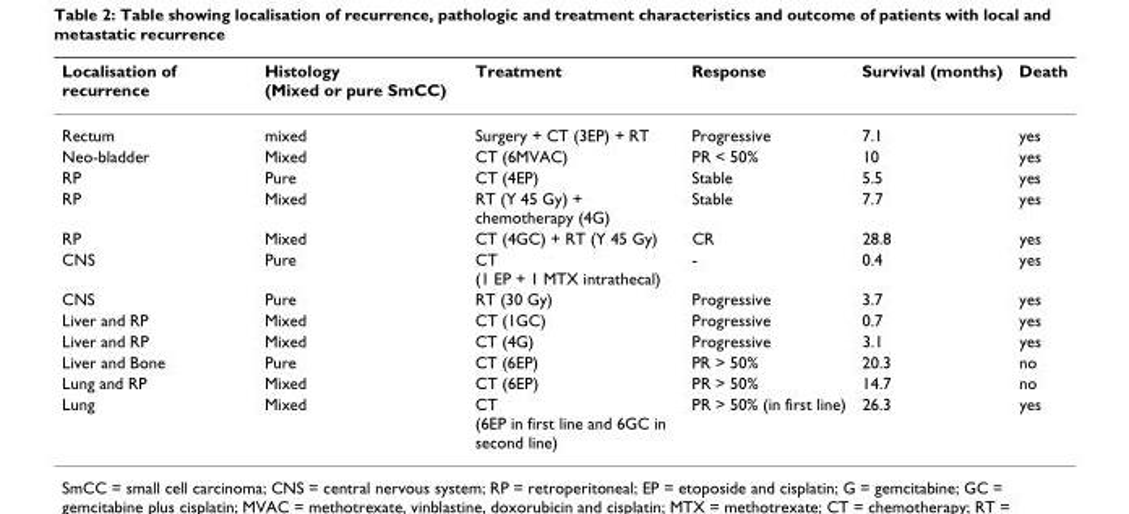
<table><thead><tr><td>Localisation of recurrence</td><td>Histology (Mixed or pure SmCC)</td><td>Treatment</td><td>Response</td><td>Survival (months)</td><td>Death</td></tr></thead><tbody><tr><td>Rectum</td><td>mixed</td><td>Surgery + CT (3EP) + RT</td><td>Progressive</td><td>7.1</td><td>yes</td></tr><tr><td>Neo-bladder</td><td>Mixed</td><td>CT (6MVAC)</td><td>PR &lt; 50%</td><td>10</td><td>yes</td></tr><tr><td>RP</td><td>Pure</td><td>CT (4EP)</td><td>Stable</td><td>5.5</td><td>yes</td></tr><tr><td>RP</td><td>Mixed</td><td>RT (Y 45 Gy) + chemotherapy (4G)</td><td>Stable</td><td>7.7</td><td>yes</td></tr><tr><td>RP</td><td>Mixed</td><td>CT (4GC) + RT (Y 45 Gy)</td><td>CR</td><td>28.8</td><td>yes</td></tr><tr><td>CNS</td><td>Pure</td><td>CT (1 EP + 1 MTX intrathecal)</td><td>-</td><td>0.4</td><td>yes</td></tr><tr><td>CNS</td><td>Pure</td><td>RT (30 Gy)</td><td>Progressive</td><td>3.7</td><td>yes</td></tr><tr><td>Liver and RP</td><td>Mixed</td><td>CT (1GC)</td><td>Progressive</td><td>0.7</td><td>yes</td></tr><tr><td>Liver and RP</td><td>Mixed</td><td>CT (4G)</td><td>Progressive</td><td>3.1</td><td>yes</td></tr><tr><td>Liver and Bone</td><td>Pure</td><td>CT (6EP)</td><td>PR &gt; 50%</td><td>20.3</td><td>no</td></tr><tr><td>Lung and RP</td><td>Mixed</td><td>CT (6EP)</td><td>PR &gt; 50%</td><td>14.7</td><td>no</td></tr><tr><td>Lung</td><td>Mixed</td><td>CT (6EP in first line and 6GC in second line)</td><td>PR &gt; 50% (in first line)</td><td>26.3</td><td>yes</td></tr></tbody></table>